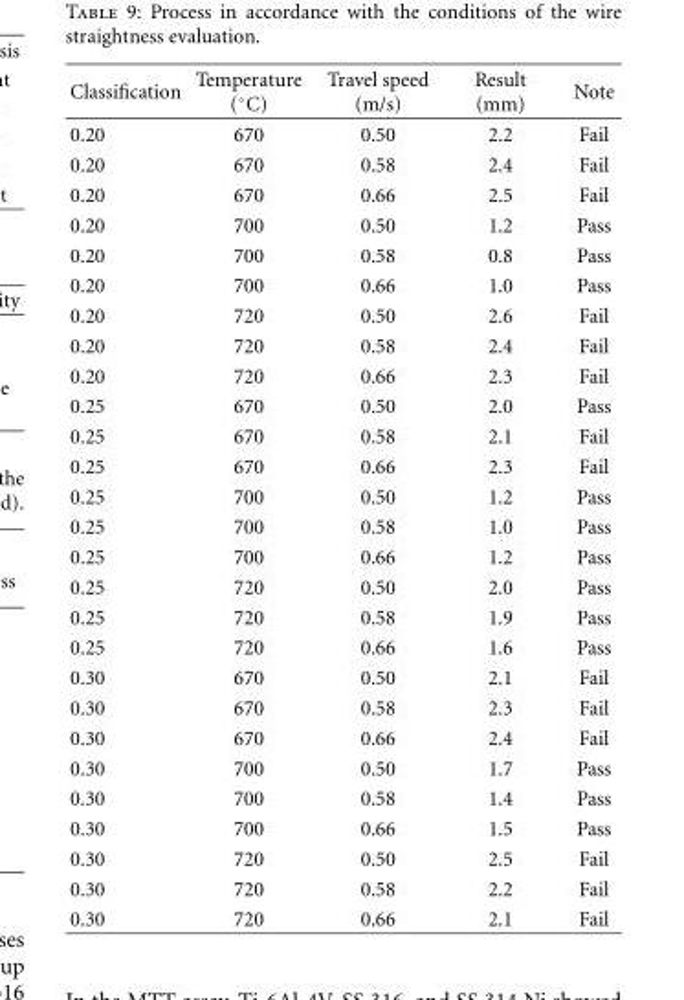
<table><thead><tr><td>Classification</td><td>Temperature (◦C)</td><td>Travel speed (m/s)</td><td>Result (mm)</td><td>Note</td></tr></thead><tbody><tr><td>0.20</td><td>670</td><td>0.50</td><td>2.2</td><td>Fail</td></tr><tr><td>0.20</td><td>670</td><td>0.58</td><td>2.4</td><td>Fail</td></tr><tr><td>0.20</td><td>670</td><td>0.66</td><td>2.5</td><td>Fail</td></tr><tr><td>0.20</td><td>700</td><td>0.50</td><td>1.2</td><td>Pass</td></tr><tr><td>0.20</td><td>700</td><td>0.58</td><td>0.8</td><td>Pass</td></tr><tr><td>0.20</td><td>700</td><td>0.66</td><td>1.0</td><td>Pass</td></tr><tr><td>0.20</td><td>720</td><td>0.50</td><td>2.6</td><td>Fail</td></tr><tr><td>0.20</td><td>720</td><td>0.58</td><td>2.4</td><td>Fail</td></tr><tr><td>0.20</td><td>720</td><td>0.66</td><td>2.3</td><td>Fail</td></tr><tr><td>0.25</td><td>670</td><td>0.50</td><td>2.0</td><td>Pass</td></tr><tr><td>0.25</td><td>670</td><td>0.58</td><td>2.1</td><td>Fail</td></tr><tr><td>0.25</td><td>670</td><td>0.66</td><td>2.3</td><td>Fail</td></tr><tr><td>0.25</td><td>700</td><td>0.50</td><td>1.2</td><td>Pass</td></tr><tr><td>0.25</td><td>700</td><td>0.58</td><td>1.0</td><td>Pass</td></tr><tr><td>0.25</td><td>700</td><td>0.66</td><td>1.2</td><td>Pass</td></tr><tr><td>0.25</td><td>720</td><td>0.50</td><td>2.0</td><td>Pass</td></tr><tr><td>0.25</td><td>720</td><td>0.58</td><td>1.9</td><td>Pass</td></tr><tr><td>0.25</td><td>720</td><td>0.66</td><td>1.6</td><td>Pass</td></tr><tr><td>0.30</td><td>670</td><td>0.50</td><td>2.1</td><td>Fail</td></tr><tr><td>0.30</td><td>670</td><td>0.58</td><td>2.3</td><td>Fail</td></tr><tr><td>0.30</td><td>670</td><td>0.66</td><td>2.4</td><td>Fail</td></tr><tr><td>0.30</td><td>700</td><td>0.50</td><td>1.7</td><td>Pass</td></tr><tr><td>0.30</td><td>700</td><td>0.58</td><td>1.4</td><td>Pass</td></tr><tr><td>0.30</td><td>700</td><td>0.66</td><td>1.5</td><td>Pass</td></tr><tr><td>0.30</td><td>720</td><td>0.50</td><td>2.5</td><td>Fail</td></tr><tr><td>0.30</td><td>720</td><td>0.58</td><td>2.2</td><td>Fail</td></tr><tr><td>0.30</td><td>720</td><td>0.66</td><td>2.1</td><td>Fail</td></tr></tbody></table>